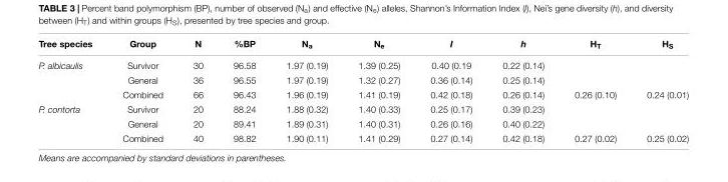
<table><thead><tr><td>Tree species</td><td>Group</td><td>N</td><td>%BP</td><td>N<sub>a</sub></td><td>N<sub>e</sub></td><td>I</td><td>h</td><td>H<sub>T</sub></td><td>H<sub>S</sub></td></tr></thead><tbody><tr><td rowspan="3">P. albicaulis</td><td>Survivor</td><td>30</td><td>96.58</td><td>1.97 (0.19)</td><td>1.39 (0.25)</td><td>0.40 (0.19</td><td>0.22 (0.14)</td><td></td><td></td></tr><tr><td>General</td><td>36</td><td>96.55</td><td>1.97 (0.19)</td><td>1.32 (0.27)</td><td>0.36 (0.14)</td><td>0.25 (0.14)</td><td></td><td></td></tr><tr><td>Combined</td><td>66</td><td>96.43</td><td>1.96 (0.19)</td><td>1.41 (0.19)</td><td>0.42 (0.18)</td><td>0.26 (0.14)</td><td>0.26 (0.10)</td><td>0.24 (0.01)</td></tr><tr><td rowspan="3">P. contorta</td><td>Survivor</td><td>20</td><td>88.24</td><td>1.88 (0.32)</td><td>1.40 (0.33)</td><td>0.25 (0.17)</td><td>0.39 (0.23)</td><td></td><td></td></tr><tr><td>General</td><td>20</td><td>89.41</td><td>1.89 (0.31)</td><td>1.40 (0.31)</td><td>0.26 (0.16)</td><td>0.40 (0.22)</td><td></td><td></td></tr><tr><td>Combined</td><td>40</td><td>98.82</td><td>1.90 (0.11)</td><td>1.41 (0.29)</td><td>0.27 (0.14)</td><td>0.42 (0.18)</td><td>0.27 (0.02)</td><td>0.25 (0.02)</td></tr></tbody></table>